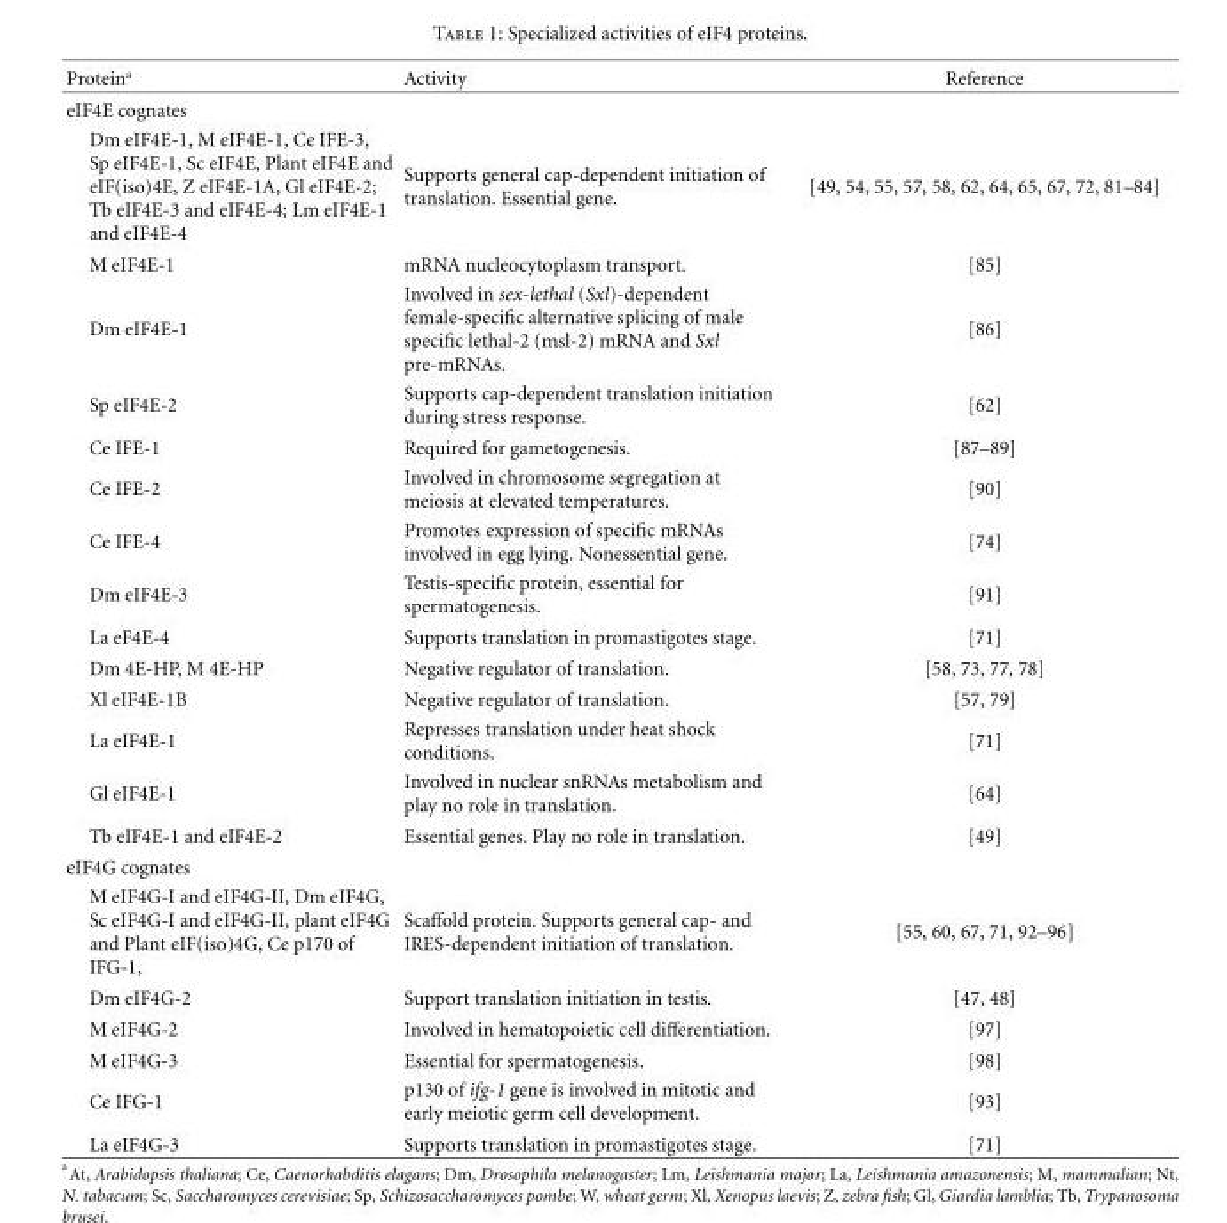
<table><thead><tr><td>Protein<sup>a</sup></td><td>Activity</td><td>Reference</td></tr></thead><tbody><tr><td colspan="3">eIF4E cognates</td></tr><tr><td>Dm eIF4E-1, M eIF4E-1, Ce IFE-3, Sp eIF4E-1, Sc eIF4E, Plant eIF4E and eIF(iso)4E, Z eIF4E-1A, Gl eIF4E-2; Tb eIF4E-3 and eIF4E-4; Lm eIF4E-1 and eIF4E-4</td><td>Supports general cap-dependent initiation of translation. Essential gene.</td><td>[49, 54, 55, 57, 58, 62, 64, 65, 67, 72, 81–84]</td></tr><tr><td>M eIF4E-1</td><td>mRNA nucleocytoplasm transport.</td><td>[85]</td></tr><tr><td>Dm eIF4E-1</td><td>Involved in sex-lethal (Sxl)-dependent female-specific alternative splicing of male specific lethal-2 (msl-2) mRNA and Sxl pre-mRNAs.</td><td>[86]</td></tr><tr><td>Sp eIF4E-2</td><td>Supports cap-dependent translation initiation during stress response.</td><td>[62]</td></tr><tr><td>Ce IFE-1</td><td>Required for gametogenesis.</td><td>[87–89]</td></tr><tr><td>Ce IFE-2</td><td>Involved in chromosome segregation at meiosis at elevated temperatures.</td><td>[90]</td></tr><tr><td>Ce IFE-4</td><td>Promotes expression of specific mRNAs involved in egg lying. Nonessential gene.</td><td>[74]</td></tr><tr><td>Dm eIF4E-3</td><td>Testis-specific protein, essential for spermatogenesis.</td><td>[91]</td></tr><tr><td>La eF4E-4</td><td>Supports translation in promastigotes stage.</td><td>[71]</td></tr><tr><td>Dm 4E-HP, M 4E-HP</td><td>Negative regulator of translation.</td><td>[58, 73, 77, 78]</td></tr><tr><td>Xl eIF4E-1B</td><td>Negative regulator of translation.</td><td>[57, 79]</td></tr><tr><td>La eIF4E-1</td><td>Represses translation under heat shock conditions.</td><td>[71]</td></tr><tr><td>Gl eIF4E-1</td><td>Involved in nuclear snRNAs metabolism and play no role in translation.</td><td>[64]</td></tr><tr><td>Tb eIF4E-1 and eIF4E-2</td><td>Essential genes. Play no role in translation.</td><td>[49]</td></tr><tr><td colspan="3">eIF4G cognates</td></tr><tr><td>M eIF4G-I and eIF4G-II, Dm eIF4G, Sc eIF4G-I and eIF4G-II, plant eIF4G and Plant eIF(iso)4G, Ce p170 of IFG-1,</td><td>Scaffold protein. Supports general cap- and IRES-dependent initiation of translation.</td><td>[55, 60, 67, 71, 92–96]</td></tr><tr><td>Dm eIF4G-2</td><td>Support translation initiation in testis.</td><td>[47, 48]</td></tr><tr><td>M eIF4G-2</td><td>Involved in hematopoietic cell differentiation.</td><td>[97]</td></tr><tr><td>M eIF4G-3</td><td>Essential for spermatogenesis.</td><td>[98]</td></tr><tr><td>Ce IFG-1</td><td>p130 of ifg-1 gene is involved in mitotic and early meiotic germ cell development.</td><td>[93]</td></tr><tr><td>La eIF4G-3</td><td>Supports translation in promastigotes stage.</td><td>[71]</td></tr></tbody></table>